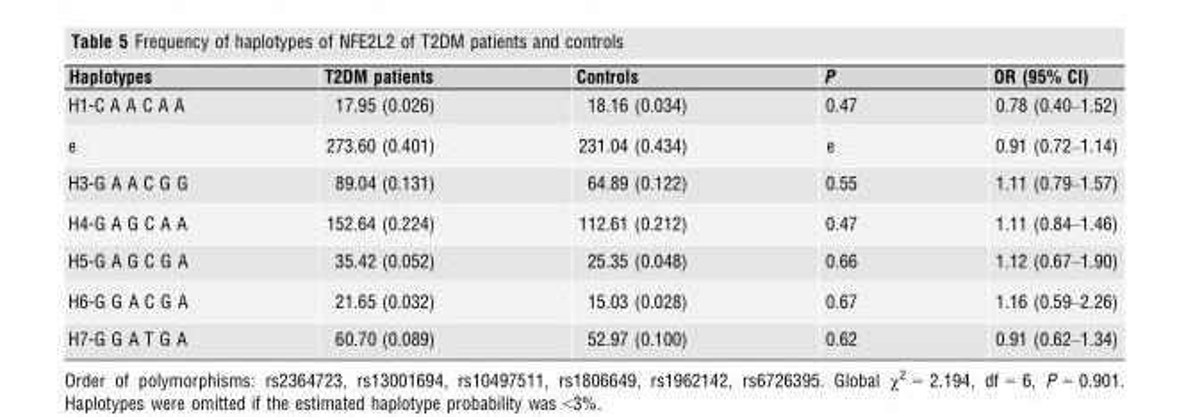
<table><thead><tr><td>Haplotypes</td><td>T2DM patients</td><td>Controls</td><td>P</td><td>OR (95% CI)</td></tr></thead><tbody><tr><td>H1-C A A C A A</td><td>17.95 (0.026)</td><td>18.16 (0.034)</td><td>0.47</td><td>0.78 (0.40–1.52)</td></tr><tr><td>e</td><td>273.60 (0.401)</td><td>231.04 (0.434)</td><td>e</td><td>0.91 (0.72–1.14)</td></tr><tr><td>H3-G A A C G G</td><td>89.04 (0.131)</td><td>64.89 (0.122)</td><td>0.55</td><td>1.11 (0.79–1.57)</td></tr><tr><td>H4-G A G C A A</td><td>152.64 (0.224)</td><td>112.61 (0.212)</td><td>0.47</td><td>1.11 (0.84–1.46)</td></tr><tr><td>H5-G A G C G A</td><td>35.42 (0.052)</td><td>25.35 (0.048)</td><td>0.66</td><td>1.12 (0.67–1.90)</td></tr><tr><td>H6-G G A C G A</td><td>21.65 (0.032)</td><td>15.03 (0.028)</td><td>0.67</td><td>1.16 (0.59–2.26)</td></tr><tr><td>H7-G G A T G A</td><td>60.70 (0.089)</td><td>52.97 (0.100)</td><td>0.62</td><td>0.91 (0.62–1.34)</td></tr></tbody></table>